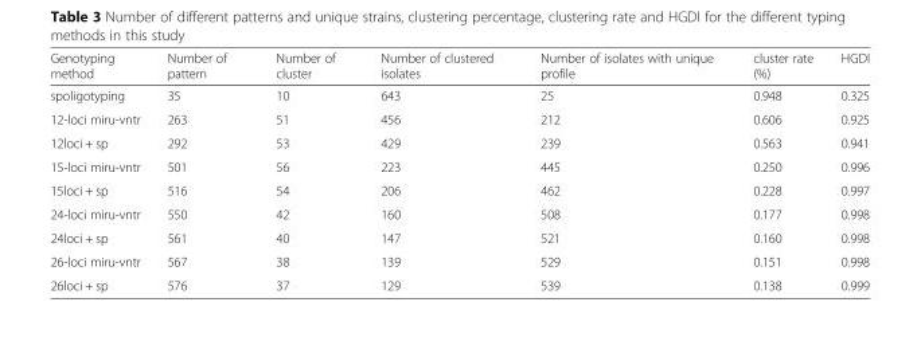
<table><thead><tr><td>Genotyping method</td><td>Number of pattern</td><td>Number of cluster</td><td>Number of clustered isolates</td><td>Number of isolates with unique profile</td><td>cluster rate (%)</td><td>HGDI</td></tr></thead><tbody><tr><td>spoligotyping</td><td>35</td><td>10</td><td>643</td><td>25</td><td>0.948</td><td>0.325</td></tr><tr><td>12-loci miru-vntr</td><td>263</td><td>51</td><td>456</td><td>212</td><td>0.606</td><td>0.925</td></tr><tr><td>12loci + sp</td><td>292</td><td>53</td><td>429</td><td>239</td><td>0.563</td><td>0.941</td></tr><tr><td>15-loci miru-vntr</td><td>501</td><td>56</td><td>223</td><td>445</td><td>0.250</td><td>0.996</td></tr><tr><td>15loci + sp</td><td>516</td><td>54</td><td>206</td><td>462</td><td>0.228</td><td>0.997</td></tr><tr><td>24-loci miru-vntr</td><td>550</td><td>42</td><td>160</td><td>508</td><td>0.177</td><td>0.998</td></tr><tr><td>24loci + sp</td><td>561</td><td>40</td><td>147</td><td>521</td><td>0.160</td><td>0.998</td></tr><tr><td>26-loci miru-vntr</td><td>567</td><td>38</td><td>139</td><td>529</td><td>0.151</td><td>0.998</td></tr><tr><td>26loci + sp</td><td>576</td><td>37</td><td>129</td><td>539</td><td>0.138</td><td>0.999</td></tr></tbody></table>